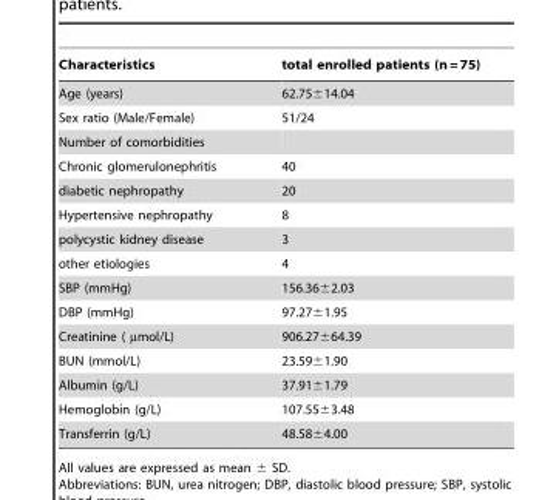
<table><thead><tr><td>Characteristics</td><td>total enrolled patients (n = 75)</td></tr></thead><tbody><tr><td>Age (years)</td><td>62.75±14.04</td></tr><tr><td>Sex ratio (Male/Female)</td><td>51/24</td></tr><tr><td colspan="2">Number of comorbidities</td></tr><tr><td>Chronic glomerulonephritis</td><td>40</td></tr><tr><td>diabetic nephropathy</td><td>20</td></tr><tr><td>Hypertensive nephropathy</td><td>8</td></tr><tr><td>polycystic kidney disease</td><td>3</td></tr><tr><td>other etiologies</td><td>4</td></tr><tr><td>SBP (mmHg)</td><td>156.36±2.03</td></tr><tr><td>DBP (mmHg)</td><td>97.27±1.95</td></tr><tr><td>Creatinine ( µmol/L)</td><td>906.27±64.39</td></tr><tr><td>BUN (mmol/L)</td><td>23.59±1.90</td></tr><tr><td>Albumin (g/L)</td><td>37.91±1.79</td></tr><tr><td>Hemoglobin (g/L)</td><td>107.55±3.48</td></tr><tr><td>Transferrin (g/L)</td><td>48.58±4.00</td></tr></tbody></table>